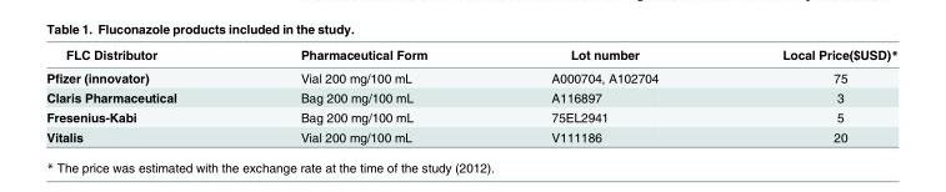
<table><thead><tr><td>FLC Distributor</td><td>Pharmaceutical Form</td><td>Lot number</td><td>Local Price($USD)*</td></tr></thead><tbody><tr><td>Pfizer (innovator)</td><td>Vial 200 mg/100 mL</td><td>A000704, A102704</td><td>75</td></tr><tr><td>Claris Pharmaceutical</td><td>Bag 200 mg/100 mL</td><td>A116897</td><td>3</td></tr><tr><td>Fresenius-Kabi</td><td>Bag 200 mg/100 mL</td><td>75EL2941</td><td>5</td></tr><tr><td>Vitalis</td><td>Vial 200 mg/100 mL</td><td>V111186</td><td>20</td></tr></tbody></table>